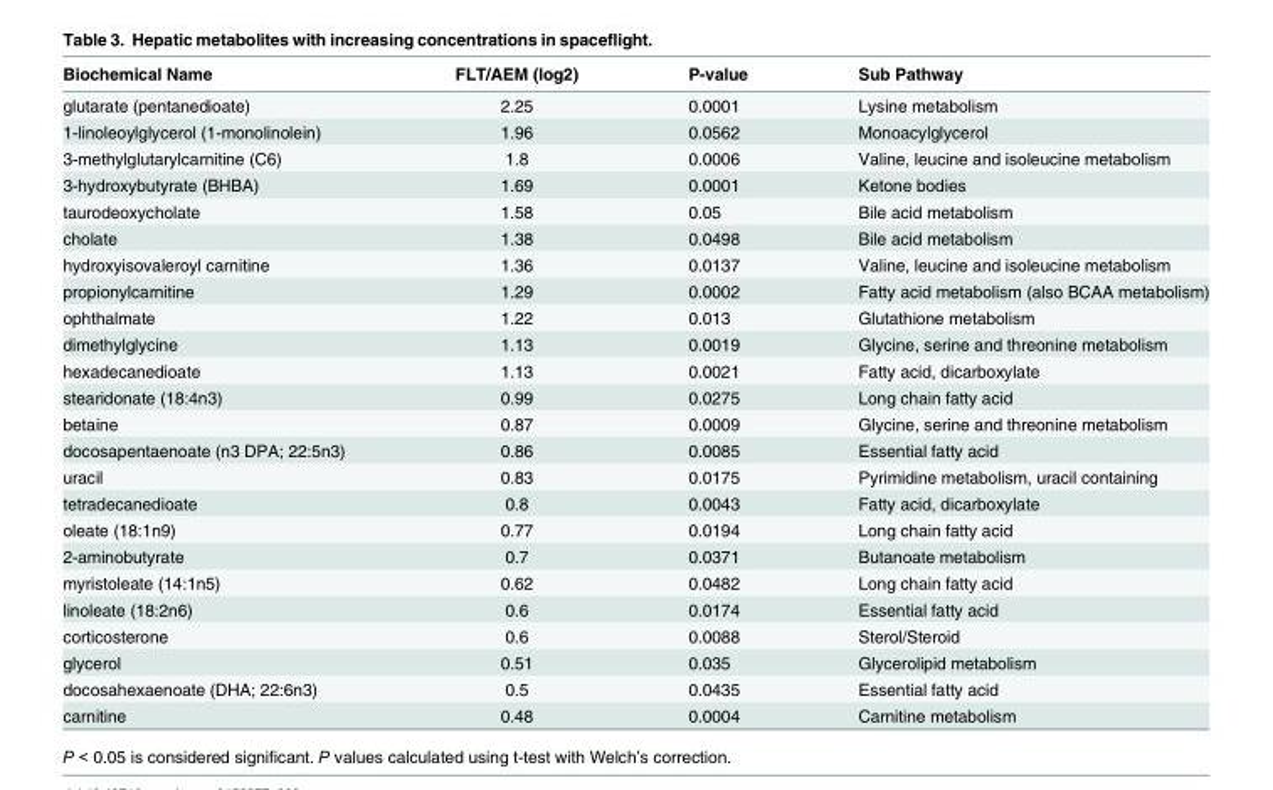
<table><thead><tr><td>Biochemical Name</td><td>FLT/AEM (log2)</td><td>P-value</td><td>Sub Pathway</td></tr></thead><tbody><tr><td>glutarate (pentanedioate)</td><td>2.25</td><td>0.0001</td><td>Lysine metabolism</td></tr><tr><td>1-linoleoylglycerol (1-monolinolein)</td><td>1.96</td><td>0.0562</td><td>Monoacylglycerol</td></tr><tr><td>3-methylglutarylcarnitine (C6)</td><td>1.8</td><td>0.0006</td><td>Valine, leucine and isoleucine metabolism</td></tr><tr><td>3-hydroxybutyrate (BHBA)</td><td>1.69</td><td>0.0001</td><td>Ketone bodies</td></tr><tr><td>taurodeoxycholate</td><td>1.58</td><td>0.05</td><td>Bile acid metabolism</td></tr><tr><td>cholate</td><td>1.38</td><td>0.0498</td><td>Bile acid metabolism</td></tr><tr><td>hydroxyisovaleroyl carnitine</td><td>1.36</td><td>0.0137</td><td>Valine, leucine and isoleucine metabolism</td></tr><tr><td>propionylcarnitine</td><td>1.29</td><td>0.0002</td><td>Fatty acid metabolism (also BCAA metabolism)</td></tr><tr><td>ophthalmate</td><td>1.22</td><td>0.013</td><td>Glutathione metabolism</td></tr><tr><td>dimethylglycine</td><td>1.13</td><td>0.0019</td><td>Glycine, serine and threonine metabolism</td></tr><tr><td>hexadecanedioate</td><td>1.13</td><td>0.0021</td><td>Fatty acid, dicarboxylate</td></tr><tr><td>stearidonate (18:4n3)</td><td>0.99</td><td>0.0275</td><td>Long chain fatty acid</td></tr><tr><td>betaine</td><td>0.87</td><td>0.0009</td><td>Glycine, serine and threonine metabolism</td></tr><tr><td>docosapentaenoate (n3 DPA; 22:5n3)</td><td>0.86</td><td>0.0085</td><td>Essential fatty acid</td></tr><tr><td>uracil</td><td>0.83</td><td>0.0175</td><td>Pyrimidine metabolism, uracil containing</td></tr><tr><td>tetradecanedioate</td><td>0.8</td><td>0.0043</td><td>Fatty acid, dicarboxylate</td></tr><tr><td>oleate (18:1n9)</td><td>0.77</td><td>0.0194</td><td>Long chain fatty acid</td></tr><tr><td>2-aminobutyrate</td><td>0.7</td><td>0.0371</td><td>Butanoate metabolism</td></tr><tr><td>myristoleate (14:1n5)</td><td>0.62</td><td>0.0482</td><td>Long chain fatty acid</td></tr><tr><td>linoleate (18:2n6)</td><td>0.6</td><td>0.0174</td><td>Essential fatty acid</td></tr><tr><td>corticosterone</td><td>0.6</td><td>0.0088</td><td>Sterol/Steroid</td></tr><tr><td>glycerol</td><td>0.51</td><td>0.035</td><td>Glycerolipid metabolism</td></tr><tr><td>docosahexaenoate (DHA; 22:6n3)</td><td>0.5</td><td>0.0435</td><td>Essential fatty acid</td></tr><tr><td>carnitine</td><td>0.48</td><td>0.0004</td><td>Carnitine metabolism</td></tr></tbody></table>